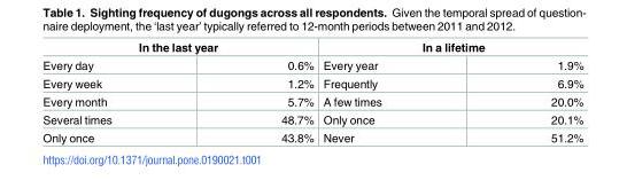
<table><thead><tr><td colspan="2">In the last year</td><td colspan="2">In a lifetime</td></tr><tr><td>Every day</td><td>0.6%</td><td>Every year</td><td>1.9%</td></tr></thead><tbody><tr><td>Every week</td><td>1.2%</td><td>Frequently</td><td>6.9%</td></tr><tr><td>Every month</td><td>5.7%</td><td>A few times</td><td>20.0%</td></tr><tr><td>Several times</td><td>48.7%</td><td>Only once</td><td>20.1%</td></tr><tr><td>Only once</td><td>43.8%</td><td>Never</td><td>51.2%</td></tr></tbody></table>